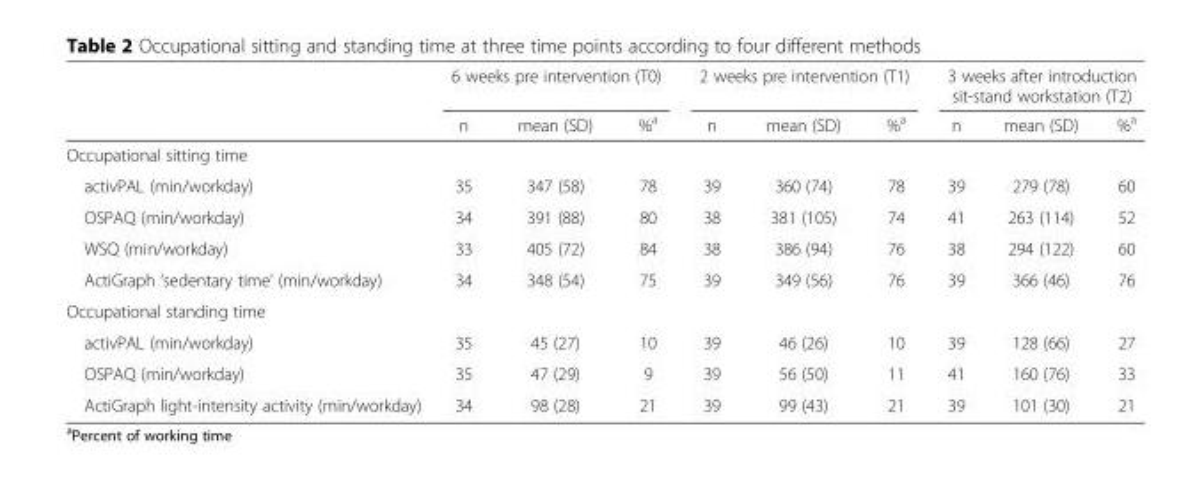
<table><thead><tr><td rowspan="2"></td><td colspan="3">6 weeks pre intervention (T0)</td><td colspan="3">2 weeks pre intervention (T1)</td><td colspan="3">3 weeks after introduction sit-stand workstation (T2)</td></tr><tr><td>n</td><td>mean (SD)</td><td>%<sup>a</sup></td><td>n</td><td>mean (SD)</td><td>%<sup>a</sup></td><td>n</td><td>mean (SD)</td><td>%<sup>a</sup></td></tr></thead><tbody><tr><td colspan="10">Occupational sitting time</td></tr><tr><td>activPAL (min/workday)</td><td>35</td><td>347 (58)</td><td>78</td><td>39</td><td>360 (74)</td><td>78</td><td>39</td><td>279 (78)</td><td>60</td></tr><tr><td>OSPAQ (min/workday)</td><td>34</td><td>391 (88)</td><td>80</td><td>38</td><td>381 (105)</td><td>74</td><td>41</td><td>263 (114)</td><td>52</td></tr><tr><td>WSQ (min/workday)</td><td>33</td><td>405 (72)</td><td>84</td><td>38</td><td>386 (94)</td><td>76</td><td>38</td><td>294 (122)</td><td>60</td></tr><tr><td>ActiGraph ‘sedentary time’ (min/workday)</td><td>34</td><td>348 (54)</td><td>75</td><td>39</td><td>349 (56)</td><td>76</td><td>39</td><td>366 (46)</td><td>76</td></tr><tr><td colspan="10">Occupational standing time</td></tr><tr><td>activPAL (min/workday)</td><td>35</td><td>45 (27)</td><td>10</td><td>39</td><td>46 (26)</td><td>10</td><td>39</td><td>128 (66)</td><td>27</td></tr><tr><td>OSPAQ (min/workday)</td><td>35</td><td>47 (29)</td><td>9</td><td>39</td><td>56 (50)</td><td>11</td><td>41</td><td>160 (76)</td><td>33</td></tr><tr><td>ActiGraph light-intensity activity (min/workday)</td><td>34</td><td>98 (28)</td><td>21</td><td>39</td><td>99 (43)</td><td>21</td><td>39</td><td>101 (30)</td><td>21</td></tr></tbody></table>